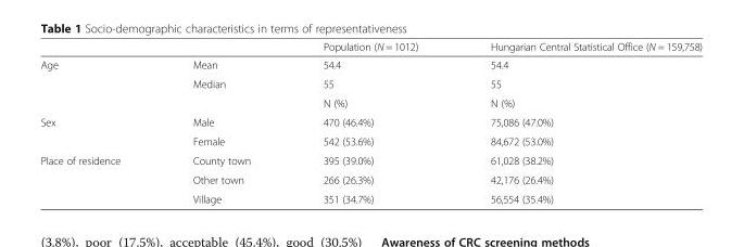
<table><thead><tr><td></td><td></td><td>Population (N = 1012)</td><td>Hungarian Central Statistical Office (N = 159,758)</td></tr></thead><tbody><tr><td rowspan="3">Age</td><td>Mean</td><td>54.4</td><td>54.4</td></tr><tr><td>Median</td><td>55</td><td>55</td></tr><tr><td></td><td>N (%)</td><td>N (%)</td></tr><tr><td rowspan="2">Sex</td><td>Male</td><td>470 (46.4%)</td><td>75,086 (47.0%)</td></tr><tr><td>Female</td><td>542 (53.6%)</td><td>84,672 (53.0%)</td></tr><tr><td rowspan="3">Place of residence</td><td>County town</td><td>395 (39.0%)</td><td>61,028 (38.2%)</td></tr><tr><td>Other town</td><td>266 (26.3%)</td><td>42,176 (26.4%)</td></tr><tr><td>Village</td><td>351 (34.7%)</td><td>56,554 (35.4%)</td></tr></tbody></table>